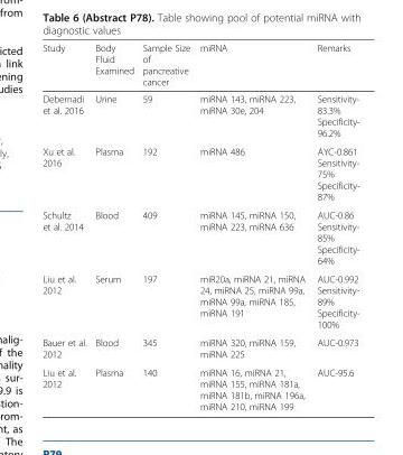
<table><thead><tr><td>Study</td><td>Body Fluid Examined</td><td>Sample Size of pancreative cancer</td><td>miRNA</td><td>Remarks</td></tr></thead><tbody><tr><td>Debernadi et al. 2016</td><td>Urine</td><td>59</td><td>miRNA 143, miRNA 223, miRNA 30e, 204</td><td>Sensitivity- 83.3% Specificity- 96.2%</td></tr><tr><td>Xu et al. 2016</td><td>Plasma</td><td>192</td><td>miRNA 486</td><td>AYC-0.861 Sensitivity- 75% Specificity- 87%</td></tr><tr><td>Schultz et al. 2014</td><td>Blood</td><td>409</td><td>miRNA 145, miRNA 150, miRNA 223, miRNA 636</td><td>AUC-0.86 Sensitivity- 85% Specificity- 64%</td></tr><tr><td>Liu et al. 2012</td><td>Serum</td><td>197</td><td>miR20a, miRNA 21, miRNA 24, miRNA 25, miRNA 99a, miRNA 99a, miRNA 185, miRNA 191</td><td>AUC-0.992 Sensitivity- 89% Specificity- 100%</td></tr><tr><td>Bauer et al. 2012</td><td>Blood</td><td>345</td><td>miRNA 320, miRNA 159, miRNA 225</td><td>AUC-0.973</td></tr><tr><td>Liu et al. 2012</td><td>Plasma</td><td>140</td><td>miRNA 16, miRNA 21, miRNA 155, miRNA 181a, miRNA 181b, miRNA 196a, miRNA 210, miRNA 199</td><td>AUC-95.6</td></tr></tbody></table>